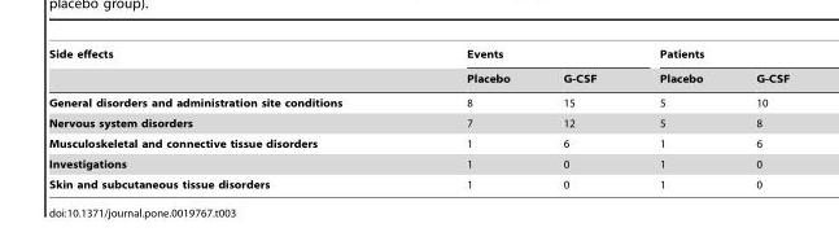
<table><thead><tr><td rowspan="2">Side effects</td><td colspan="2">Events</td><td colspan="2">Patients</td></tr><tr><td>Placebo</td><td>G-CSF</td><td>Placebo</td><td>G-CSF</td></tr></thead><tbody><tr><td>General disorders and administration site conditions</td><td>8</td><td>15</td><td>5</td><td>10</td></tr><tr><td>Nervous system disorders</td><td>7</td><td>12</td><td>5</td><td>8</td></tr><tr><td>Musculoskeletal and connective tissue disorders</td><td>1</td><td>6</td><td>1</td><td>6</td></tr><tr><td>Investigations</td><td>1</td><td>0</td><td>1</td><td>0</td></tr><tr><td>Skin and subcutaneous tissue disorders</td><td>1</td><td>0</td><td>1</td><td>0</td></tr></tbody></table>